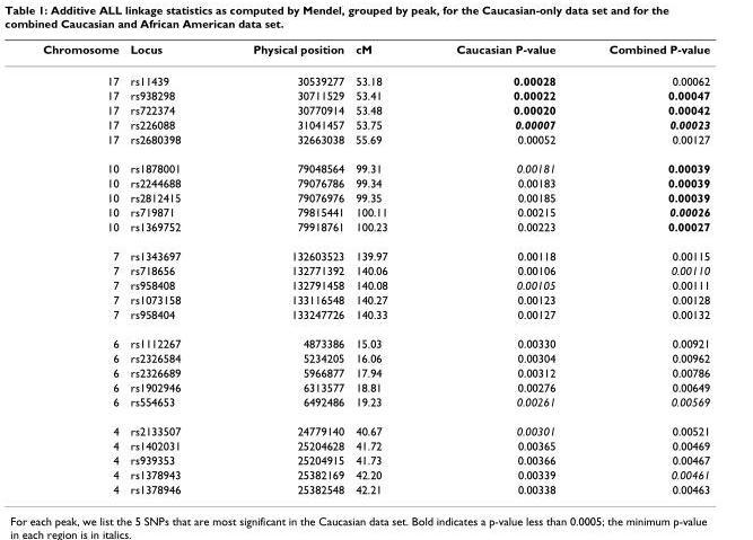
<table><thead><tr><td>Chromosome</td><td>Locus</td><td>Physical position</td><td>cM</td><td>Caucasian P-value</td><td>Combined P-value</td></tr></thead><tbody><tr><td>17</td><td>rs11439</td><td>30539277</td><td>53.18</td><td>0.00028</td><td>0.00062</td></tr><tr><td>17</td><td>rs938298</td><td>30711529</td><td>53.41</td><td>0.00022</td><td>0.00047</td></tr><tr><td>17</td><td>rs722374</td><td>30770914</td><td>53.48</td><td>0.00020</td><td>0.00042</td></tr><tr><td>17</td><td>rs226088</td><td>31041457</td><td>53.75</td><td>0.00007</td><td>0.00023</td></tr><tr><td>17</td><td>rs2680398</td><td>32663038</td><td>55.69</td><td>0.00052</td><td>0.00127</td></tr><tr><td>10</td><td>rs1878001</td><td>79048564</td><td>99.31</td><td>0.00181</td><td>0.00039</td></tr><tr><td>10</td><td>rs2244688</td><td>79076786</td><td>99.34</td><td>0.00183</td><td>0.00039</td></tr><tr><td>10</td><td>rs2812415</td><td>79076976</td><td>99.35</td><td>0.00185</td><td>0.00039</td></tr><tr><td>10</td><td>rs719871</td><td>79815441</td><td>100.11</td><td>0.00215</td><td>0.00026</td></tr><tr><td>10</td><td>rs1369752</td><td>79918761</td><td>100.23</td><td>0.00223</td><td>0.00027</td></tr><tr><td>7</td><td>rs1343697</td><td>132603523</td><td>139.97</td><td>0.00118</td><td>0.00115</td></tr><tr><td>7</td><td>rs718656</td><td>132771392</td><td>140.06</td><td>0.00106</td><td>0.00110</td></tr><tr><td>7</td><td>rs958408</td><td>132791458</td><td>140.08</td><td>0.00105</td><td>0.00111</td></tr><tr><td>7</td><td>rs1073158</td><td>133116548</td><td>140.27</td><td>0.00123</td><td>0.00128</td></tr><tr><td>7</td><td>rs958404</td><td>133247726</td><td>140.33</td><td>0.00127</td><td>0.00132</td></tr><tr><td>6</td><td>rs1112267</td><td>4873386</td><td>15.03</td><td>0.00330</td><td>0.00921</td></tr><tr><td>6</td><td>rs2326584</td><td>5234205</td><td>16.06</td><td>0.00304</td><td>0.00962</td></tr><tr><td>6</td><td>rs2326689</td><td>5966877</td><td>17.94</td><td>0.00312</td><td>0.00786</td></tr><tr><td>6</td><td>rs1902946</td><td>6313577</td><td>18.81</td><td>0.00276</td><td>0.00649</td></tr><tr><td>6</td><td>rs554653</td><td>6492486</td><td>19.23</td><td>0.00261</td><td>0.00569</td></tr><tr><td>4</td><td>rs2133507</td><td>24779140</td><td>40.67</td><td>0.00301</td><td>0.00521</td></tr><tr><td>4</td><td>rs1402031</td><td>25204628</td><td>41.72</td><td>0.00365</td><td>0.00469</td></tr><tr><td>4</td><td>rs939353</td><td>25204915</td><td>41.73</td><td>0.00366</td><td>0.00467</td></tr><tr><td>4</td><td>rs1378943</td><td>25382169</td><td>42.20</td><td>0.00339</td><td>0.00461</td></tr><tr><td>4</td><td>rs1378946</td><td>25382548</td><td>42.21</td><td>0.00338</td><td>0.00463</td></tr></tbody></table>